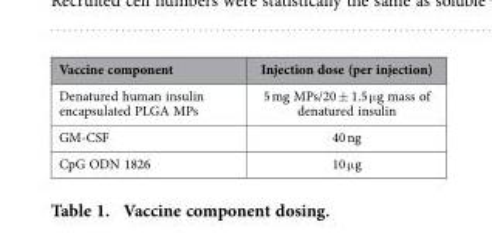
<table><thead><tr><td>Vaccine component</td><td>Injection dose (per injection)</td></tr></thead><tbody><tr><td>Denatured human insulin encapsulated PLGA MPs</td><td>5 mg MPs/20 ± 1.5 μ g mass of denatured insulin</td></tr><tr><td>GM-CSF</td><td>40 ng</td></tr><tr><td>CpG ODN 1826</td><td>10 μ g</td></tr></tbody></table>